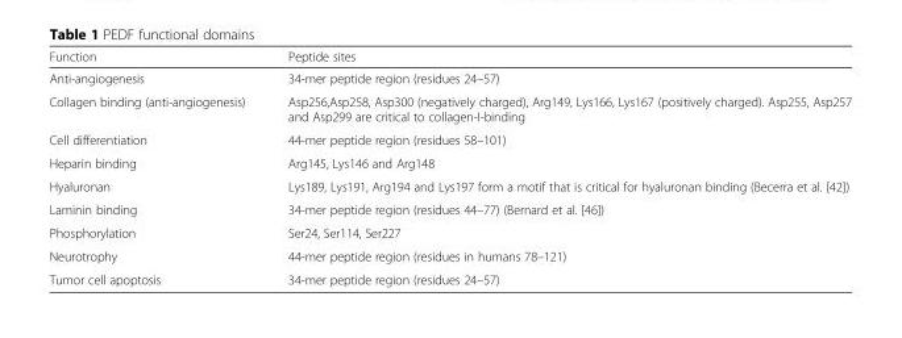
<table><thead><tr><td>Function</td><td>Peptide sites</td></tr></thead><tbody><tr><td>Anti-angiogenesis</td><td>34-mer peptide region (residues 24–57)</td></tr><tr><td>Collagen binding (anti-angiogenesis)</td><td>Asp256,Asp258, Asp300 (negatively charged), Arg149, Lys166, Lys167 (positively charged). Asp255, Asp257 and Asp299 are critical to collagen-I-binding</td></tr><tr><td>Cell differentiation</td><td>44-mer peptide region (residues 58–101)</td></tr><tr><td>Heparin binding</td><td>Arg145, Lys146 and Arg148</td></tr><tr><td>Hyaluronan</td><td>Lys189, Lys191, Arg194 and Lys197 form a motif that is critical for hyaluronan binding (Becerra et al. [42])</td></tr><tr><td>Laminin binding</td><td>34-mer peptide region (residues 44–77) (Bernard et al. [46])</td></tr><tr><td>Phosphorylation</td><td>Ser24, Ser114, Ser227</td></tr><tr><td>Neurotrophy</td><td>44-mer peptide region (residues in humans 78–121)</td></tr><tr><td>Tumor cell apoptosis</td><td>34-mer peptide region (residues 24–57)</td></tr></tbody></table>